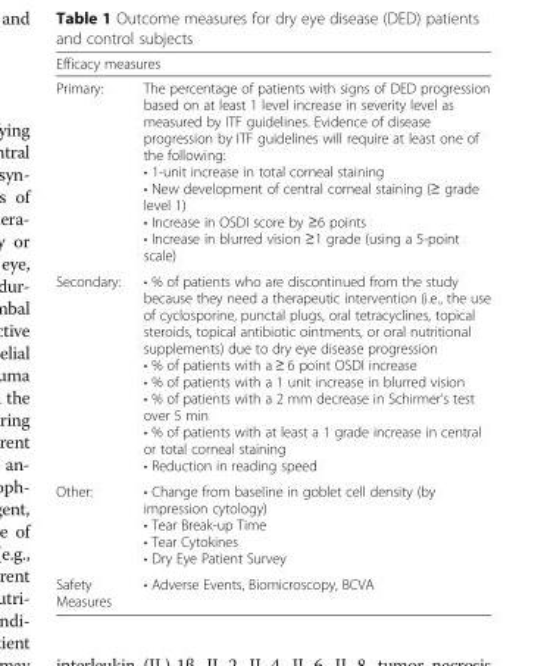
<table><thead><tr><td colspan="2">Efficacy measures</td></tr><tr><td>Primary:</td><td>The percentage of patients with signs of DED progression based on at least 1 level increase in severity level as measured by ITF guidelines. Evidence of disease progression by ITF guidelines will require at least one of the following: • 1-unit increase in total corneal staining • New development of central corneal staining (≥ grade level 1) • Increase in OSDI score by ≥6 points • Increase in blurred vision ≥1 grade (using a 5-point scale)</td></tr></thead><tbody><tr><td>Secondary:</td><td>• % of patients who are discontinued from the study because they need a therapeutic intervention (i.e., the use of cyclosporine, punctal plugs, oral tetracyclines, topical steroids, topical antibiotic ointments, or oral nutritional supplements) due to dry eye disease progression • % of patients with a ≥ 6 point OSDI increase • % of patients with a 1 unit increase in blurred vision • % of patients with a 2 mm decrease in Schirmer’s test over 5 min • % of patients with at least a 1 grade increase in central or total corneal staining • Reduction in reading speed</td></tr><tr><td>Other:</td><td>• Change from baseline in goblet cell density (by impression cytology) • Tear Break-up Time • Tear Cytokines • Dry Eye Patient Survey</td></tr><tr><td>Safety Measures</td><td>• Adverse Events, Biomicroscopy, BCVA</td></tr></tbody></table>